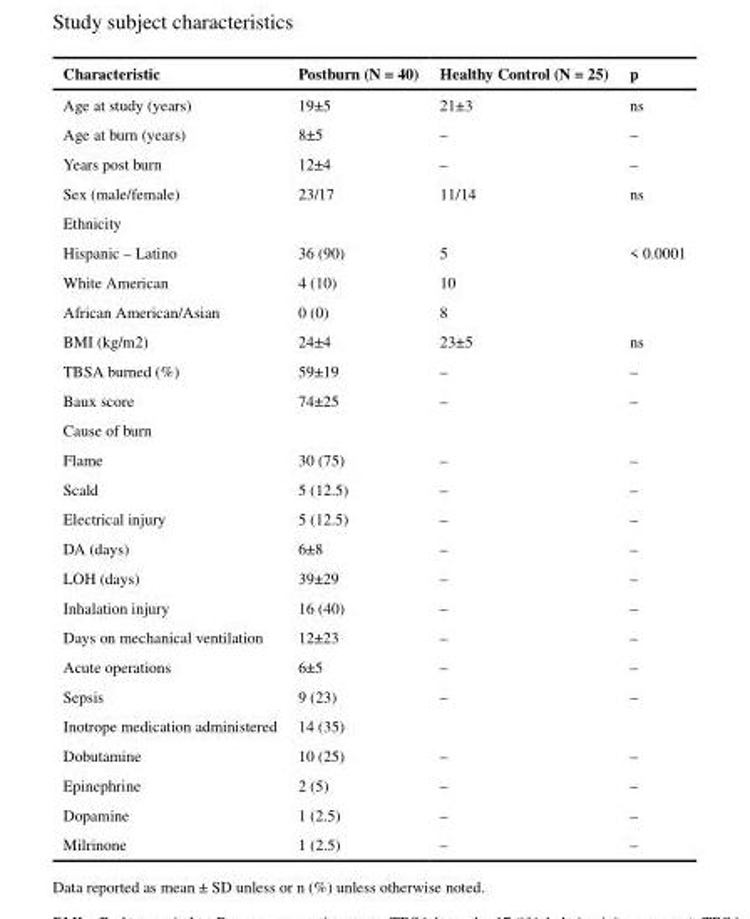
<table><thead><tr><td>Characteristic</td><td>Postburn (N = 40)</td><td>Healthy Control (N = 25)</td><td>p</td></tr></thead><tbody><tr><td>Age at study (years)</td><td>19±5</td><td>21±3</td><td>ns</td></tr><tr><td>Age at burn (years)</td><td>8±5</td><td>–</td><td>–</td></tr><tr><td>Years post burn</td><td>12±4</td><td>–</td><td>–</td></tr><tr><td>Sex (male/female)</td><td>23/17</td><td>11/14</td><td>ns</td></tr><tr><td colspan="4">Ethnicity</td></tr><tr><td>Hispanic – Latino</td><td>36 (90)</td><td>5</td><td>&lt; 0.0001</td></tr><tr><td>White American</td><td>4 (10)</td><td>10</td><td></td></tr><tr><td>African American/Asian</td><td>0 (0)</td><td>8</td><td></td></tr><tr><td>BMI (kg/m2)</td><td>24±4</td><td>23±5</td><td>ns</td></tr><tr><td>TBSA burned (%)</td><td>59±19</td><td>–</td><td>–</td></tr><tr><td>Baux score</td><td>74±25</td><td>–</td><td>–</td></tr><tr><td colspan="4">Cause of burn</td></tr><tr><td>Flame</td><td>30 (75)</td><td>–</td><td>–</td></tr><tr><td>Scald</td><td>5 (12.5)</td><td>–</td><td>–</td></tr><tr><td>Electrical injury</td><td>5 (12.5)</td><td>–</td><td>–</td></tr><tr><td>DA (days)</td><td>6±8</td><td>–</td><td>–</td></tr><tr><td>LOH (days)</td><td>39±29</td><td>–</td><td>–</td></tr><tr><td>Inhalation injury</td><td>16 (40)</td><td>–</td><td>–</td></tr><tr><td>Days on mechanical ventilation</td><td>12±23</td><td>–</td><td>–</td></tr><tr><td>Acute operations</td><td>6±5</td><td>–</td><td>–</td></tr><tr><td>Sepsis</td><td>9 (23)</td><td>–</td><td>–</td></tr><tr><td>Inotrope medication administered</td><td>14 (35)</td><td></td><td></td></tr><tr><td>Dobutamine</td><td>10 (25)</td><td>–</td><td>–</td></tr><tr><td>Epinephrine</td><td>2 (5)</td><td>–</td><td>–</td></tr><tr><td>Dopamine</td><td>1 (2.5)</td><td>–</td><td>–</td></tr><tr><td>Milrinone</td><td>1 (2.5)</td><td>–</td><td>–</td></tr></tbody></table>